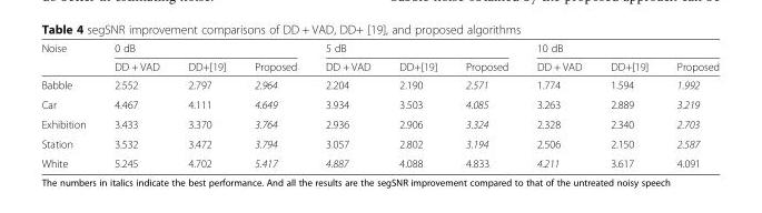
<table><thead><tr><td rowspan="2">Noise</td><td colspan="3">0 dB</td><td colspan="3">5 dB</td><td colspan="3">10 dB</td></tr><tr><td>DD + VAD</td><td>DD+[19]</td><td>Proposed</td><td>DD + VAD</td><td>DD+[19]</td><td>Proposed</td><td>DD + VAD</td><td>DD+[19]</td><td>Proposed</td></tr></thead><tbody><tr><td>Babble</td><td>2.552</td><td>2.797</td><td>2.964</td><td>2.204</td><td>2.190</td><td>2.571</td><td>1.774</td><td>1.594</td><td>1.992</td></tr><tr><td>Car</td><td>4.467</td><td>4.111</td><td>4.649</td><td>3.934</td><td>3.503</td><td>4.085</td><td>3.263</td><td>2.889</td><td>3.219</td></tr><tr><td>Exhibition</td><td>3.433</td><td>3.370</td><td>3.764</td><td>2.936</td><td>2.906</td><td>3.324</td><td>2.328</td><td>2.340</td><td>2.703</td></tr><tr><td>Station</td><td>3.532</td><td>3.472</td><td>3.794</td><td>3.057</td><td>2.802</td><td>3.194</td><td>2.506</td><td>2.150</td><td>2.587</td></tr><tr><td>White</td><td>5.245</td><td>4.702</td><td>5.417</td><td>4.887</td><td>4.088</td><td>4.833</td><td>4.211</td><td>3.617</td><td>4.091</td></tr></tbody></table>